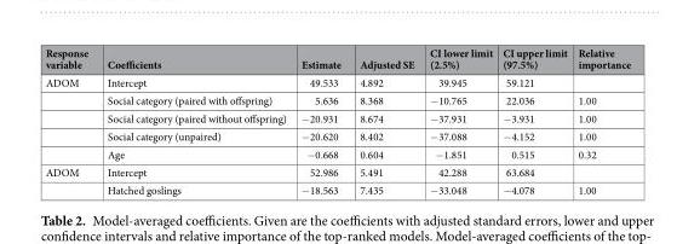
<table><thead><tr><td>Response variable</td><td>Coefficients</td><td>Estimate</td><td>Adjusted SE</td><td>CI lower limit (2.5%)</td><td>CI upper limit (97.5%)</td><td>Relative importance</td></tr></thead><tbody><tr><td rowspan="5">ADOM</td><td>Intercept</td><td>49.533</td><td>4.892</td><td>39.945</td><td>59.121</td><td></td></tr><tr><td>Social category (paired with offspring)</td><td>5.636</td><td>8.368</td><td>−10.765</td><td>22.036</td><td>1.00</td></tr><tr><td>Social category (paired without offspring)</td><td>−20.931</td><td>8.674</td><td>−37.931</td><td>−3.931</td><td>1.00</td></tr><tr><td>Social category (unpaired)</td><td>−20.620</td><td>8.402</td><td>−37.088</td><td>−4.152</td><td>1.00</td></tr><tr><td>Age</td><td>−0.668</td><td>0.604</td><td>−1.851</td><td>0.515</td><td>0.32</td></tr><tr><td rowspan="2">ADOM</td><td>Intercept</td><td>52.986</td><td>5.491</td><td>42.288</td><td>63.684</td><td></td></tr><tr><td>Hatched goslings</td><td>−18.563</td><td>7.435</td><td>−33.048</td><td>−4.078</td><td>1.00</td></tr></tbody></table>